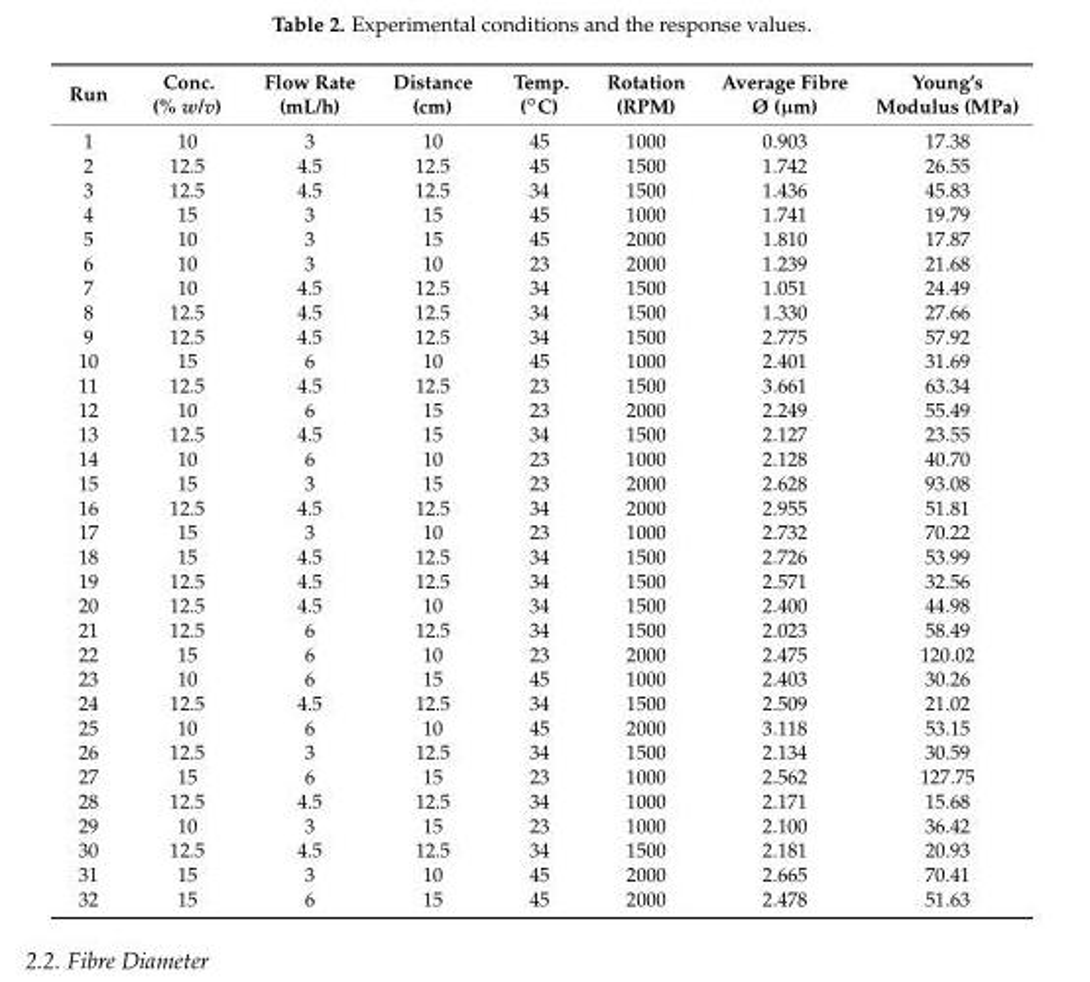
<table><thead><tr><td>Run</td><td>Conc. (% w/v)</td><td>Flow Rate (mL/h)</td><td>Distance (cm)</td><td>Temp. (◦C)</td><td>Rotation (RPM)</td><td>Average Fibre Ø (µm)</td><td>Young’s Modulus (MPa)</td></tr></thead><tbody><tr><td>1</td><td>10</td><td>3</td><td>10</td><td>45</td><td>1000</td><td>0.903</td><td>17.38</td></tr><tr><td>2</td><td>12.5</td><td>4.5</td><td>12.5</td><td>45</td><td>1500</td><td>1.742</td><td>26.55</td></tr><tr><td>3</td><td>12.5</td><td>4.5</td><td>12.5</td><td>34</td><td>1500</td><td>1.436</td><td>45.83</td></tr><tr><td>4</td><td>15</td><td>3</td><td>15</td><td>45</td><td>1000</td><td>1.741</td><td>19.79</td></tr><tr><td>5</td><td>10</td><td>3</td><td>15</td><td>45</td><td>2000</td><td>1.810</td><td>17.87</td></tr><tr><td>6</td><td>10</td><td>3</td><td>10</td><td>23</td><td>2000</td><td>1.239</td><td>21.68</td></tr><tr><td>7</td><td>10</td><td>4.5</td><td>12.5</td><td>34</td><td>1500</td><td>1.051</td><td>24.49</td></tr><tr><td>8</td><td>12.5</td><td>4.5</td><td>12.5</td><td>34</td><td>1500</td><td>1.330</td><td>27.66</td></tr><tr><td>9</td><td>12.5</td><td>4.5</td><td>12.5</td><td>34</td><td>1500</td><td>2.775</td><td>57.92</td></tr><tr><td>10</td><td>15</td><td>6</td><td>10</td><td>45</td><td>1000</td><td>2.401</td><td>31.69</td></tr><tr><td>11</td><td>12.5</td><td>4.5</td><td>12.5</td><td>23</td><td>1500</td><td>3.661</td><td>63.34</td></tr><tr><td>12</td><td>10</td><td>6</td><td>15</td><td>23</td><td>2000</td><td>2.249</td><td>55.49</td></tr><tr><td>13</td><td>12.5</td><td>4.5</td><td>15</td><td>34</td><td>1500</td><td>2.127</td><td>23.55</td></tr><tr><td>14</td><td>10</td><td>6</td><td>10</td><td>23</td><td>1000</td><td>2.128</td><td>40.70</td></tr><tr><td>15</td><td>15</td><td>3</td><td>15</td><td>23</td><td>2000</td><td>2.628</td><td>93.08</td></tr><tr><td>16</td><td>12.5</td><td>4.5</td><td>12.5</td><td>34</td><td>2000</td><td>2.955</td><td>51.81</td></tr><tr><td>17</td><td>15</td><td>3</td><td>10</td><td>23</td><td>1000</td><td>2.732</td><td>70.22</td></tr><tr><td>18</td><td>15</td><td>4.5</td><td>12.5</td><td>34</td><td>1500</td><td>2.726</td><td>53.99</td></tr><tr><td>19</td><td>12.5</td><td>4.5</td><td>12.5</td><td>34</td><td>1500</td><td>2.571</td><td>32.56</td></tr><tr><td>20</td><td>12.5</td><td>4.5</td><td>10</td><td>34</td><td>1500</td><td>2.400</td><td>44.98</td></tr><tr><td>21</td><td>12.5</td><td>6</td><td>12.5</td><td>34</td><td>1500</td><td>2.023</td><td>58.49</td></tr><tr><td>22</td><td>15</td><td>6</td><td>10</td><td>23</td><td>2000</td><td>2.475</td><td>120.02</td></tr><tr><td>23</td><td>10</td><td>6</td><td>15</td><td>45</td><td>1000</td><td>2.403</td><td>30.26</td></tr><tr><td>24</td><td>12.5</td><td>4.5</td><td>12.5</td><td>34</td><td>1500</td><td>2.509</td><td>21.02</td></tr><tr><td>25</td><td>10</td><td>6</td><td>10</td><td>45</td><td>2000</td><td>3.118</td><td>53.15</td></tr><tr><td>26</td><td>12.5</td><td>3</td><td>12.5</td><td>34</td><td>1500</td><td>2.134</td><td>30.59</td></tr><tr><td>27</td><td>15</td><td>6</td><td>15</td><td>23</td><td>1000</td><td>2.562</td><td>127.75</td></tr><tr><td>28</td><td>12.5</td><td>4.5</td><td>12.5</td><td>34</td><td>1000</td><td>2.171</td><td>15.68</td></tr><tr><td>29</td><td>10</td><td>3</td><td>15</td><td>23</td><td>1000</td><td>2.100</td><td>36.42</td></tr><tr><td>30</td><td>12.5</td><td>4.5</td><td>12.5</td><td>34</td><td>1500</td><td>2.181</td><td>20.93</td></tr><tr><td>31</td><td>15</td><td>3</td><td>10</td><td>45</td><td>2000</td><td>2.665</td><td>70.41</td></tr><tr><td>32</td><td>15</td><td>6</td><td>15</td><td>45</td><td>2000</td><td>2.478</td><td>51.63</td></tr></tbody></table>